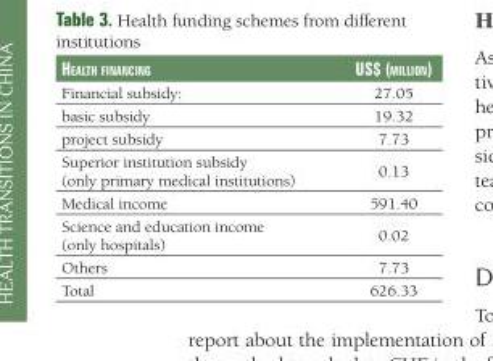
<table><thead><tr><td>HealtH financing</td><td>uS$ (milliOn)</td></tr></thead><tbody><tr><td>Financial subsidy:</td><td>27.05</td></tr><tr><td>basic subsidy</td><td>19.32</td></tr><tr><td>project subsidy</td><td>7.73</td></tr><tr><td>Superior institution subsidy (only primary medical institutions)</td><td>0.13</td></tr><tr><td>Medical income</td><td>591.40</td></tr><tr><td>Science and education income (only hospitals)</td><td>0.02</td></tr><tr><td>Others</td><td>7.73</td></tr><tr><td>Total</td><td>626.33</td></tr></tbody></table>